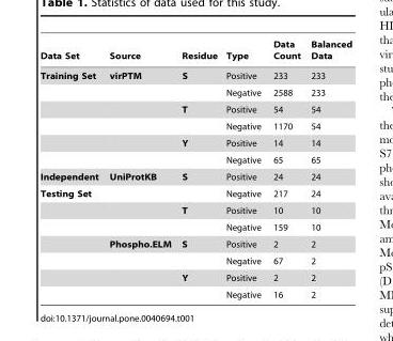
<table><thead><tr><td>Data Set</td><td>Source</td><td>Residue</td><td>Type</td><td>Data Count</td><td>Balanced Data</td></tr></thead><tbody><tr><td rowspan="6">Training Set</td><td>virPTM</td><td>S</td><td>Positive</td><td>233</td><td>233</td></tr><tr><td></td><td></td><td>Negative</td><td>2588</td><td>233</td></tr><tr><td></td><td>T</td><td>Positive</td><td>54</td><td>54</td></tr><tr><td></td><td></td><td>Negative</td><td>1170</td><td>54</td></tr><tr><td></td><td>Y</td><td>Positive</td><td>14</td><td>14</td></tr><tr><td></td><td></td><td>Negative</td><td>65</td><td>65</td></tr><tr><td>Independent</td><td>UniProtKB</td><td>S</td><td>Positive</td><td>24</td><td>24</td></tr><tr><td rowspan="7">Testing Set</td><td></td><td></td><td>Negative</td><td>217</td><td>24</td></tr><tr><td></td><td>T</td><td>Positive</td><td>10</td><td>10</td></tr><tr><td></td><td></td><td>Negative</td><td>159</td><td>10</td></tr><tr><td>Phospho.ELM</td><td>S</td><td>Positive</td><td>2</td><td>2</td></tr><tr><td></td><td></td><td>Negative</td><td>67</td><td>2</td></tr><tr><td></td><td>Y</td><td>Positive</td><td>2</td><td>2</td></tr><tr><td></td><td></td><td>Negative</td><td>16</td><td>2</td></tr></tbody></table>